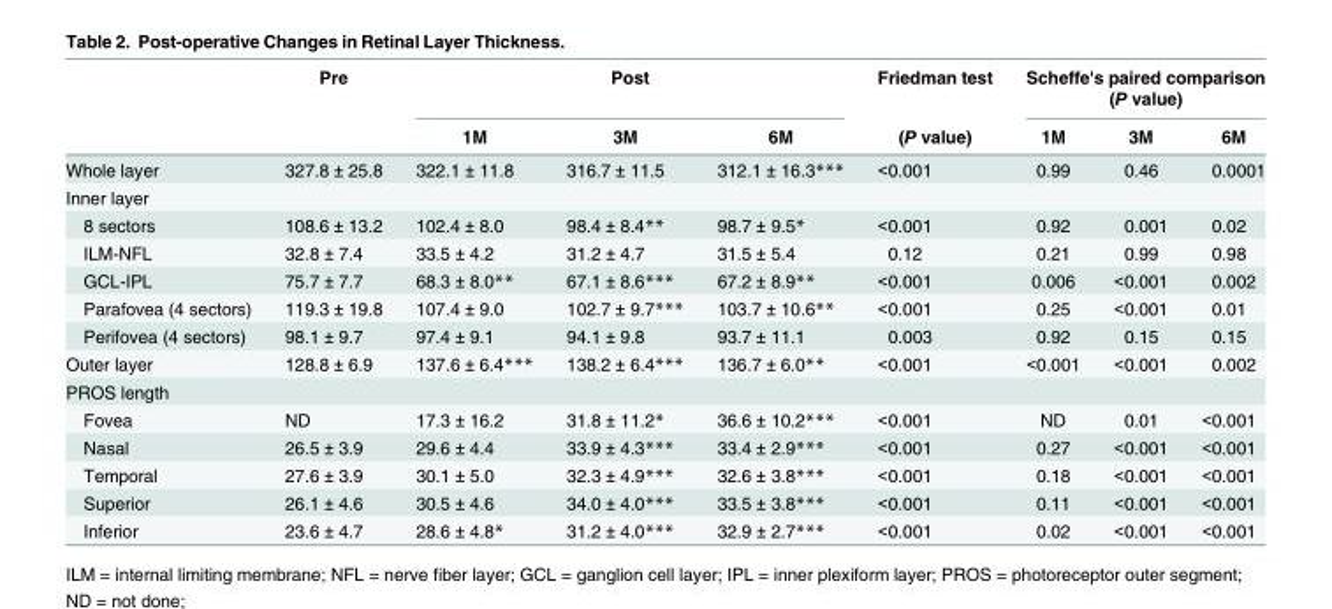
<table><thead><tr><td rowspan="2"></td><td rowspan="2">Pre</td><td colspan="3">Post</td><td rowspan="2">Friedman test (P value)</td><td colspan="3">Scheffe&#x27;s paired comparison (P value)</td></tr><tr><td>1M</td><td>3M</td><td>6M</td><td>1M</td><td>3M</td><td>6M</td></tr></thead><tbody><tr><td>Whole layer</td><td>327.8 ± 25.8</td><td>322.1 ± 11.8</td><td>316.7 ± 11.5</td><td>312.1 ± 16.3***</td><td>&lt;0.001</td><td>0.99</td><td>0.46</td><td>0.0001</td></tr><tr><td colspan="9">Inner layer</td></tr><tr><td>8 sectors</td><td>108.6 ± 13.2</td><td>102.4 ± 8.0</td><td>98.4 ± 8.4**</td><td>98.7 ± 9.5*</td><td>&lt;0.001</td><td>0.92</td><td>0.001</td><td>0.02</td></tr><tr><td>ILM-NFL</td><td>32.8 ± 7.4</td><td>33.5 ± 4.2</td><td>31.2 ± 4.7</td><td>31.5 ± 5.4</td><td>0.12</td><td>0.21</td><td>0.99</td><td>0.98</td></tr><tr><td>GCL-IPL</td><td>75.7 ± 7.7</td><td>68.3 ± 8.0**</td><td>67.1 ± 8.6***</td><td>67.2 ± 8.9**</td><td>&lt;0.001</td><td>0.006</td><td>&lt;0.001</td><td>0.002</td></tr><tr><td>Parafovea (4 sectors)</td><td>119.3 ± 19.8</td><td>107.4 ± 9.0</td><td>102.7 ± 9.7***</td><td>103.7 ± 10.6**</td><td>&lt;0.001</td><td>0.25</td><td>&lt;0.001</td><td>0.01</td></tr><tr><td>Perifovea (4 sectors)</td><td>98.1 ± 9.7</td><td>97.4 ± 9.1</td><td>94.1 ± 9.8</td><td>93.7 ± 11.1</td><td>0.003</td><td>0.92</td><td>0.15</td><td>0.15</td></tr><tr><td>Outer layer</td><td>128.8 ± 6.9</td><td>137.6 ± 6.4***</td><td>138.2 ± 6.4***</td><td>136.7 ± 6.0**</td><td>&lt;0.001</td><td>&lt;0.001</td><td>&lt;0.001</td><td>0.002</td></tr><tr><td colspan="9">PROS length</td></tr><tr><td>Fovea</td><td>ND</td><td>17.3 ± 16.2</td><td>31.8 ± 11.2*</td><td>36.6 ± 10.2***</td><td>&lt;0.001</td><td>ND</td><td>0.01</td><td>&lt;0.001</td></tr><tr><td>Nasal</td><td>26.5 ± 3.9</td><td>29.6 ± 4.4</td><td>33.9 ± 4.3***</td><td>33.4 ± 2.9***</td><td>&lt;0.001</td><td>0.27</td><td>&lt;0.001</td><td>&lt;0.001</td></tr><tr><td>Temporal</td><td>27.6 ± 3.9</td><td>30.1 ± 5.0</td><td>32.3 ± 4.9***</td><td>32.6 ± 3.8***</td><td>&lt;0.001</td><td>0.18</td><td>&lt;0.001</td><td>&lt;0.001</td></tr><tr><td>Superior</td><td>26.1 ± 4.6</td><td>30.5 ± 4.6</td><td>34.0 ± 4.0***</td><td>33.5 ± 3.8***</td><td>&lt;0.001</td><td>0.11</td><td>&lt;0.001</td><td>&lt;0.001</td></tr><tr><td>Inferior</td><td>23.6 ± 4.7</td><td>28.6 ± 4.8*</td><td>31.2 ± 4.0***</td><td>32.9 ± 2.7***</td><td>&lt;0.001</td><td>0.02</td><td>&lt;0.001</td><td>&lt;0.001</td></tr></tbody></table>